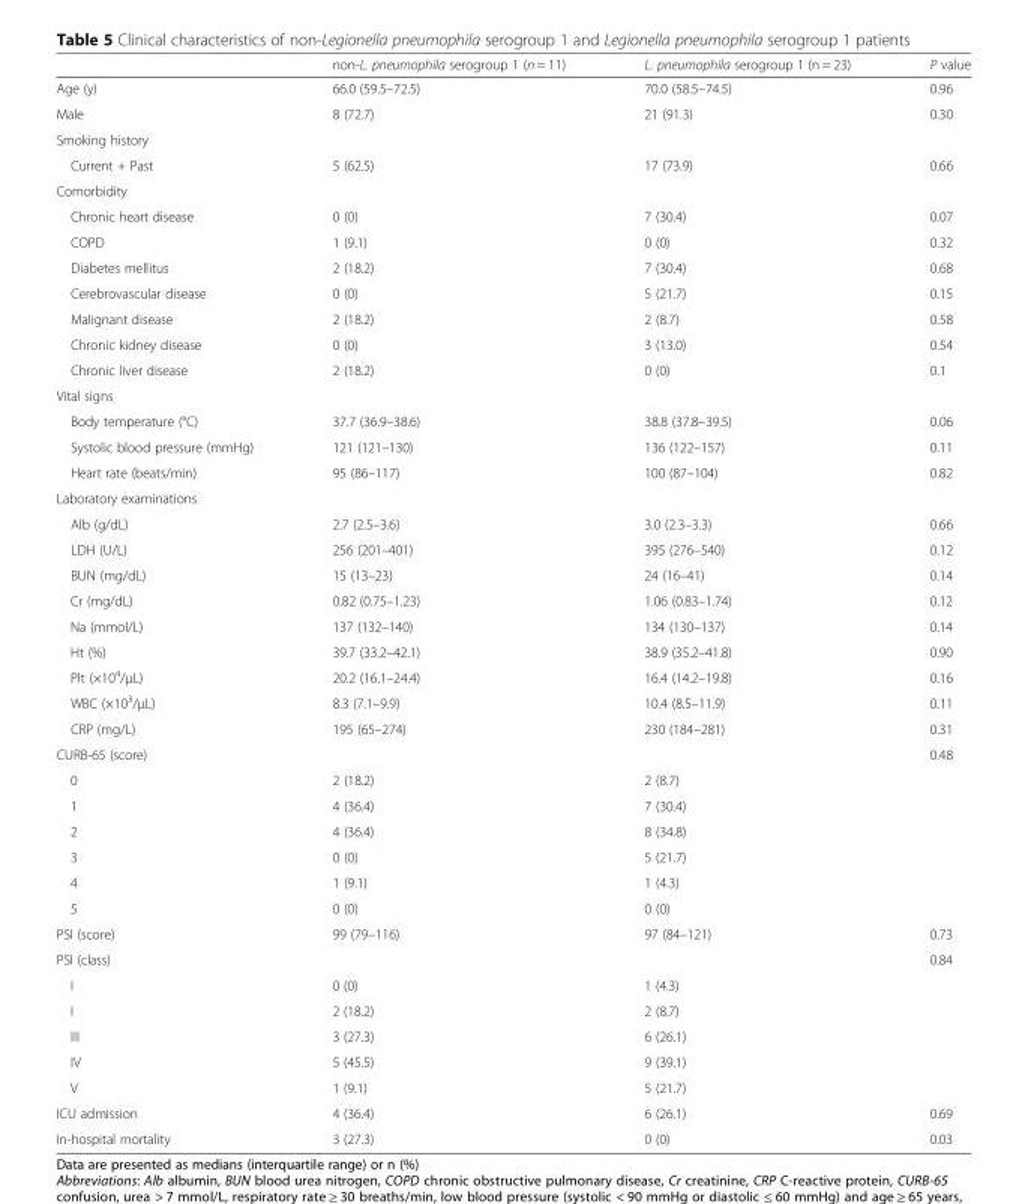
<table><thead><tr><td></td><td>non-L. pneumophila serogroup 1 (n = 11)</td><td>L. pneumophila serogroup 1 (n = 23)</td><td>P value</td></tr></thead><tbody><tr><td>Age (y)</td><td>66.0 (59.5–72.5)</td><td>70.0 (58.5–74.5)</td><td>0.96</td></tr><tr><td>Male</td><td>8 (72.7)</td><td>21 (91.3)</td><td>0.30</td></tr><tr><td colspan="4">Smoking history</td></tr><tr><td>Current + Past</td><td>5 (62.5)</td><td>17 (73.9)</td><td>0.66</td></tr><tr><td colspan="4">Comorbidity</td></tr><tr><td>Chronic heart disease</td><td>0 (0)</td><td>7 (30.4)</td><td>0.07</td></tr><tr><td>COPD</td><td>1 (9.1)</td><td>0 (0)</td><td>0.32</td></tr><tr><td>Diabetes mellitus</td><td>2 (18.2)</td><td>7 (30.4)</td><td>0.68</td></tr><tr><td>Cerebrovascular disease</td><td>0 (0)</td><td>5 (21.7)</td><td>0.15</td></tr><tr><td>Malignant disease</td><td>2 (18.2)</td><td>2 (8.7)</td><td>0.58</td></tr><tr><td>Chronic kidney disease</td><td>0 (0)</td><td>3 (13.0)</td><td>0.54</td></tr><tr><td>Chronic liver disease</td><td>2 (18.2)</td><td>0 (0)</td><td>0.1</td></tr><tr><td colspan="4">Vital signs</td></tr><tr><td>Body temperature (°C)</td><td>37.7 (36.9–38.6)</td><td>38.8 (37.8–39.5)</td><td>0.06</td></tr><tr><td>Systolic blood pressure (mmHg)</td><td>121 (121–130)</td><td>136 (122–157)</td><td>0.11</td></tr><tr><td>Heart rate (beats/min)</td><td>95 (86–117)</td><td>100 (87–104)</td><td>0.82</td></tr><tr><td colspan="4">Laboratory examinations</td></tr><tr><td>Alb (g/dL)</td><td>2.7 (2.5–3.6)</td><td>3.0 (2.3–3.3)</td><td>0.66</td></tr><tr><td>LDH (U/L)</td><td>256 (201–401)</td><td>395 (276–540)</td><td>0.12</td></tr><tr><td>BUN (mg/dL)</td><td>15 (13–23)</td><td>24 (16–41)</td><td>0.14</td></tr><tr><td>Cr (mg/dL)</td><td>0.82 (0.75–1.23)</td><td>1.06 (0.83–1.74)</td><td>0.12</td></tr><tr><td>Na (mmol/L)</td><td>137 (132–140)</td><td>134 (130–137)</td><td>0.14</td></tr><tr><td>Ht (%)</td><td>39.7 (33.2–42.1)</td><td>38.9 (35.2–41.8)</td><td>0.90</td></tr><tr><td>Plt (×10<sup>4</sup>/μL)</td><td>20.2 (16.1–24.4)</td><td>16.4 (14.2–19.8)</td><td>0.16</td></tr><tr><td>WBC (×10<sup>3</sup>/μL)</td><td>8.3 (7.1–9.9)</td><td>10.4 (8.5–11.9)</td><td>0.11</td></tr><tr><td>CRP (mg/L)</td><td>195 (65–274)</td><td>230 (184–281)</td><td>0.31</td></tr><tr><td>CURB-65 (score)</td><td></td><td></td><td>0.48</td></tr><tr><td>0</td><td>2 (18.2)</td><td>2 (8.7)</td><td></td></tr><tr><td>1</td><td>4 (36.4)</td><td>7 (30.4)</td><td></td></tr><tr><td>2</td><td>4 (36.4)</td><td>8 (34.8)</td><td></td></tr><tr><td>3</td><td>0 (0)</td><td>5 (21.7)</td><td></td></tr><tr><td>4</td><td>1 (9.1)</td><td>1 (4.3)</td><td></td></tr><tr><td>5</td><td>0 (0)</td><td>0 (0)</td><td></td></tr><tr><td>PSI (score)</td><td>99 (79–116)</td><td>97 (84–121)</td><td>0.73</td></tr><tr><td>PSI (class)</td><td></td><td></td><td>0.84</td></tr><tr><td>I</td><td>0 (0)</td><td>1 (4.3)</td><td></td></tr><tr><td>I</td><td>2 (18.2)</td><td>2 (8.7)</td><td></td></tr><tr><td>III</td><td>3 (27.3)</td><td>6 (26.1)</td><td></td></tr><tr><td>IV</td><td>5 (45.5)</td><td>9 (39.1)</td><td></td></tr><tr><td>V</td><td>1 (9.1)</td><td>5 (21.7)</td><td></td></tr><tr><td>ICU admission</td><td>4 (36.4)</td><td>6 (26.1)</td><td>0.69</td></tr><tr><td>In-hospital mortality</td><td>3 (27.3)</td><td>0 (0)</td><td>0.03</td></tr></tbody></table>